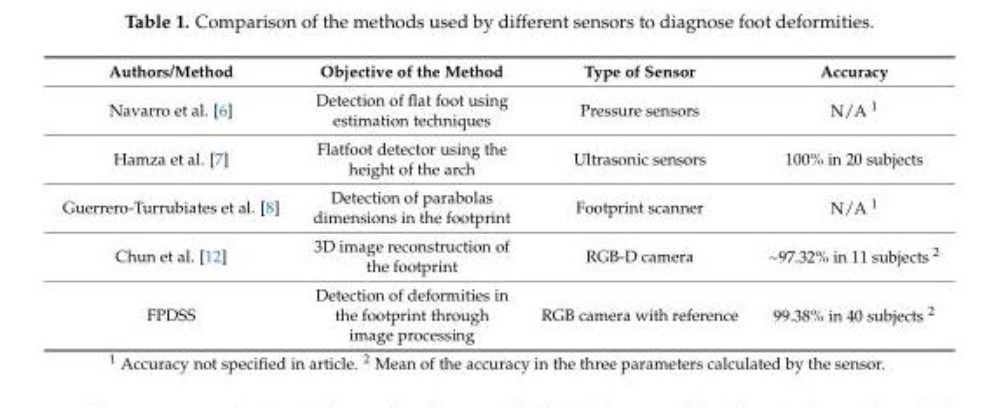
<table><thead><tr><td>Authors/Method</td><td>Objective of the Method</td><td>Type of Sensor</td><td>Accuracy</td></tr></thead><tbody><tr><td>Navarro et al. [6]</td><td>Detection of flat foot using estimation techniques</td><td>Pressure sensors</td><td>N/A <sup>1</sup></td></tr><tr><td>Hamza et al. [7]</td><td>Flatfoot detector using the height of the arch</td><td>Ultrasonic sensors</td><td>100% in 20 subjects</td></tr><tr><td>Guerrero-Turrubiates et al. [8]</td><td>Detection of parabolas dimensions in the footprint</td><td>Footprint scanner</td><td>N/A <sup>1</sup></td></tr><tr><td>Chun et al. [12]</td><td>3D image reconstruction of the footprint</td><td>RGB-D camera</td><td>~97.32% in 11 subjects <sup>2</sup></td></tr><tr><td>FPDSS</td><td>Detection of deformities in the footprint through image processing</td><td>RGB camera with reference</td><td>99.38% in 40 subjects <sup>2</sup></td></tr></tbody></table>